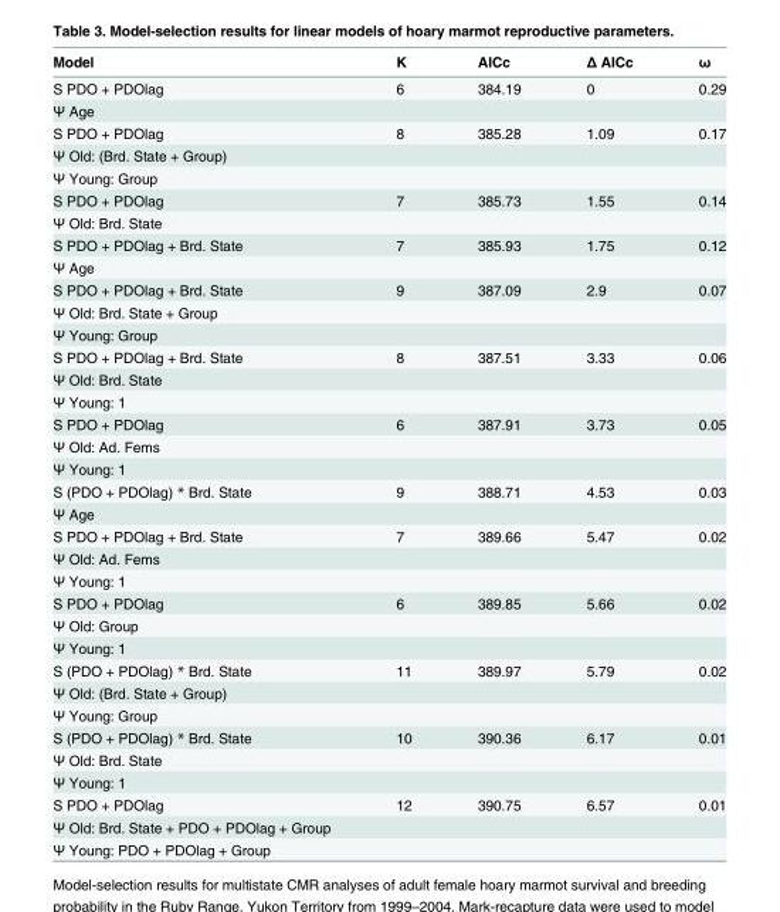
<table><thead><tr><td>Model</td><td>K</td><td>AICc</td><td>Δ AICc</td><td>ω</td></tr></thead><tbody><tr><td>S PDO + PDOlag</td><td>6</td><td>384.19</td><td>0</td><td>0.29</td></tr><tr><td colspan="5">Ψ Age</td></tr><tr><td>S PDO + PDOlag</td><td>8</td><td>385.28</td><td>1.09</td><td>0.17</td></tr><tr><td colspan="5">Ψ Old: (Brd. State + Group)</td></tr><tr><td colspan="5">Ψ Young: Group</td></tr><tr><td>S PDO + PDOlag</td><td>7</td><td>385.73</td><td>1.55</td><td>0.14</td></tr><tr><td colspan="5">Ψ Old: Brd. State</td></tr><tr><td>S PDO + PDOlag + Brd. State</td><td>7</td><td>385.93</td><td>1.75</td><td>0.12</td></tr><tr><td colspan="5">Ψ Age</td></tr><tr><td>S PDO + PDOlag + Brd. State</td><td>9</td><td>387.09</td><td>2.9</td><td>0.07</td></tr><tr><td colspan="5">Ψ Old: Brd. State + Group</td></tr><tr><td colspan="5">Ψ Young: Group</td></tr><tr><td>S PDO + PDOlag + Brd. State</td><td>8</td><td>387.51</td><td>3.33</td><td>0.06</td></tr><tr><td colspan="5">Ψ Old: Brd. State</td></tr><tr><td colspan="5">Ψ Young: 1</td></tr><tr><td>S PDO + PDOlag</td><td>6</td><td>387.91</td><td>3.73</td><td>0.05</td></tr><tr><td colspan="5">Ψ Old: Ad. Fems</td></tr><tr><td colspan="5">Ψ Young: 1</td></tr><tr><td>S (PDO + PDOlag) * Brd. State</td><td>9</td><td>388.71</td><td>4.53</td><td>0.03</td></tr><tr><td colspan="5">Ψ Age</td></tr><tr><td>S PDO + PDOlag + Brd. State</td><td>7</td><td>389.66</td><td>5.47</td><td>0.02</td></tr><tr><td colspan="5">Ψ Old: Ad. Fems</td></tr><tr><td colspan="5">Ψ Young: 1</td></tr><tr><td>S PDO + PDOlag</td><td>6</td><td>389.85</td><td>5.66</td><td>0.02</td></tr><tr><td colspan="5">Ψ Old: Group</td></tr><tr><td colspan="5">Ψ Young: 1</td></tr><tr><td>S (PDO + PDOlag) * Brd. State</td><td>11</td><td>389.97</td><td>5.79</td><td>0.02</td></tr><tr><td colspan="5">Ψ Old: (Brd. State + Group)</td></tr><tr><td colspan="5">Ψ Young: Group</td></tr><tr><td>S (PDO + PDOlag) * Brd. State</td><td>10</td><td>390.36</td><td>6.17</td><td>0.01</td></tr><tr><td colspan="5">Ψ Old: Brd. State</td></tr><tr><td colspan="5">Ψ Young: 1</td></tr><tr><td>S PDO + PDOlag</td><td>12</td><td>390.75</td><td>6.57</td><td>0.01</td></tr><tr><td colspan="5">Ψ Old: Brd. State + PDO + PDOlag + Group</td></tr><tr><td>Ψ Young: PDO + PDOlag + Group</td><td></td><td></td><td></td><td></td></tr></tbody></table>